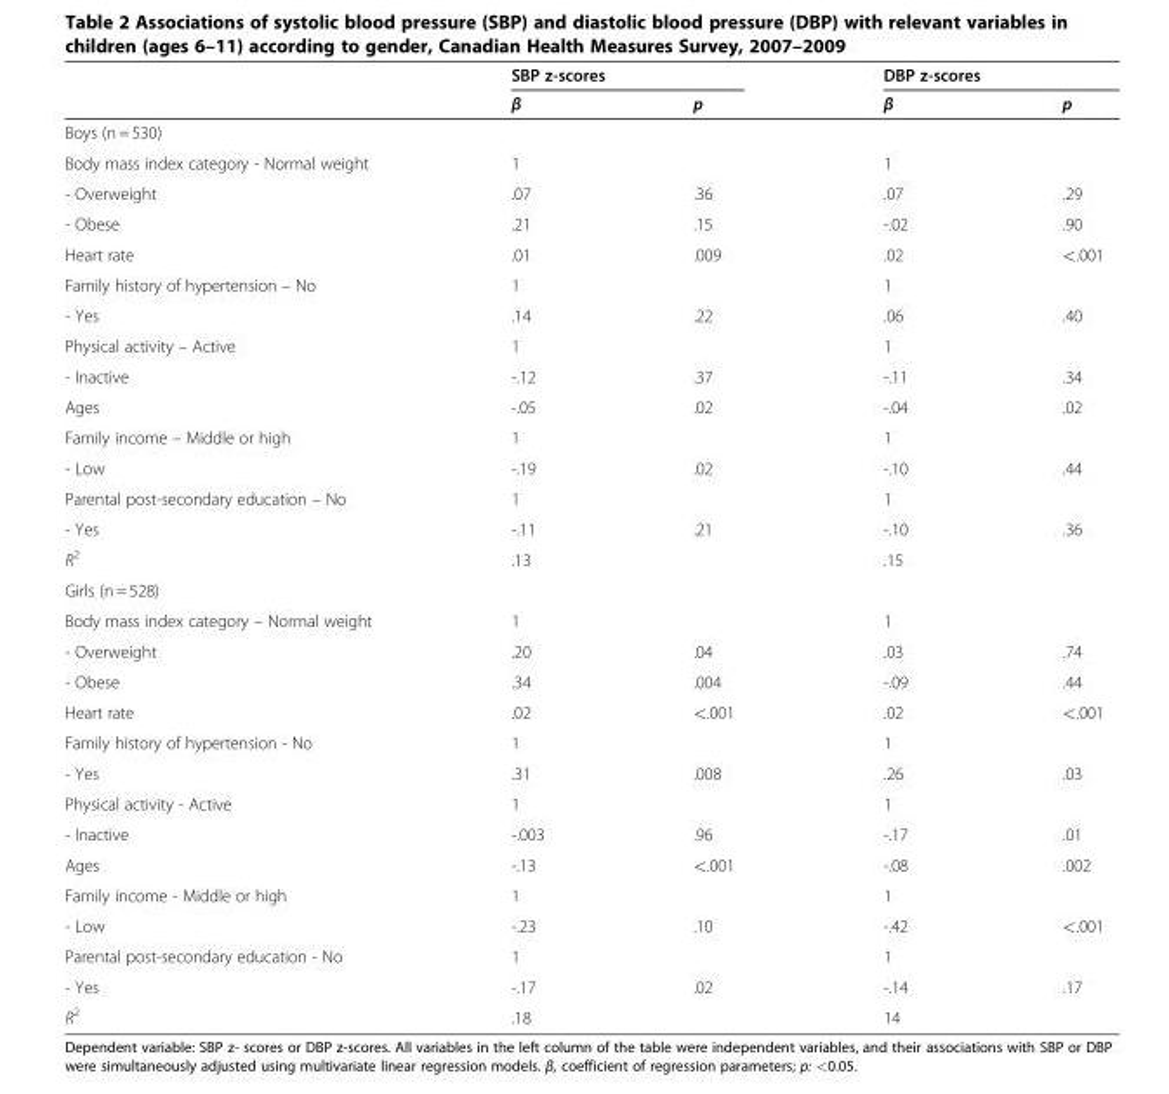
<table><thead><tr><td rowspan="2"></td><td colspan="2">SBP z-scores</td><td colspan="2">DBP z-scores</td></tr><tr><td>β</td><td>p</td><td>β</td><td>p</td></tr></thead><tbody><tr><td colspan="5">Boys (n = 530)</td></tr><tr><td>Body mass index category - Normal weight</td><td>1</td><td></td><td>1</td><td></td></tr><tr><td>- Overweight</td><td>.07</td><td>.36</td><td>.07</td><td>.29</td></tr><tr><td>- Obese</td><td>.21</td><td>.15</td><td>-.02</td><td>.90</td></tr><tr><td>Heart rate</td><td>.01</td><td>.009</td><td>.02</td><td>&lt;.001</td></tr><tr><td>Family history of hypertension – No</td><td>1</td><td></td><td>1</td><td></td></tr><tr><td>- Yes</td><td>.14</td><td>.22</td><td>.06</td><td>.40</td></tr><tr><td>Physical activity – Active</td><td>1</td><td></td><td>1</td><td></td></tr><tr><td>- Inactive</td><td>-.12</td><td>.37</td><td>-.11</td><td>.34</td></tr><tr><td>Ages</td><td>-.05</td><td>.02</td><td>-.04</td><td>.02</td></tr><tr><td>Family income – Middle or high</td><td>1</td><td></td><td>1</td><td></td></tr><tr><td>- Low</td><td>-.19</td><td>.02</td><td>-.10</td><td>.44</td></tr><tr><td>Parental post-secondary education – No</td><td>1</td><td></td><td>1</td><td></td></tr><tr><td>- Yes</td><td>-.11</td><td>.21</td><td>-.10</td><td>.36</td></tr><tr><td>R<sup>2</sup></td><td colspan="2">.13</td><td colspan="2">.15</td></tr><tr><td colspan="5">Girls (n = 528)</td></tr><tr><td>Body mass index category – Normal weight</td><td>1</td><td></td><td>1</td><td></td></tr><tr><td>- Overweight</td><td>.20</td><td>.04</td><td>.03</td><td>.74</td></tr><tr><td>- Obese</td><td>.34</td><td>.004</td><td>-.09</td><td>.44</td></tr><tr><td>Heart rate</td><td>.02</td><td>&lt;.001</td><td>.02</td><td>&lt;.001</td></tr><tr><td>Family history of hypertension - No</td><td>1</td><td></td><td>1</td><td></td></tr><tr><td>- Yes</td><td>.31</td><td>.008</td><td>.26</td><td>.03</td></tr><tr><td>Physical activity - Active</td><td>1</td><td></td><td>1</td><td></td></tr><tr><td>- Inactive</td><td>-.003</td><td>.96</td><td>-.17</td><td>.01</td></tr><tr><td>Ages</td><td>-.13</td><td>&lt;.001</td><td>-.08</td><td>.002</td></tr><tr><td>Family income - Middle or high</td><td>1</td><td></td><td>1</td><td></td></tr><tr><td>- Low</td><td>-.23</td><td>.10</td><td>-.42</td><td>&lt;.001</td></tr><tr><td>Parental post-secondary education - No</td><td>1</td><td></td><td>1</td><td></td></tr><tr><td>- Yes</td><td>-.17</td><td>.02</td><td>-.14</td><td>.17</td></tr><tr><td>R<sup>2</sup></td><td colspan="2">.18</td><td colspan="2">14</td></tr></tbody></table>